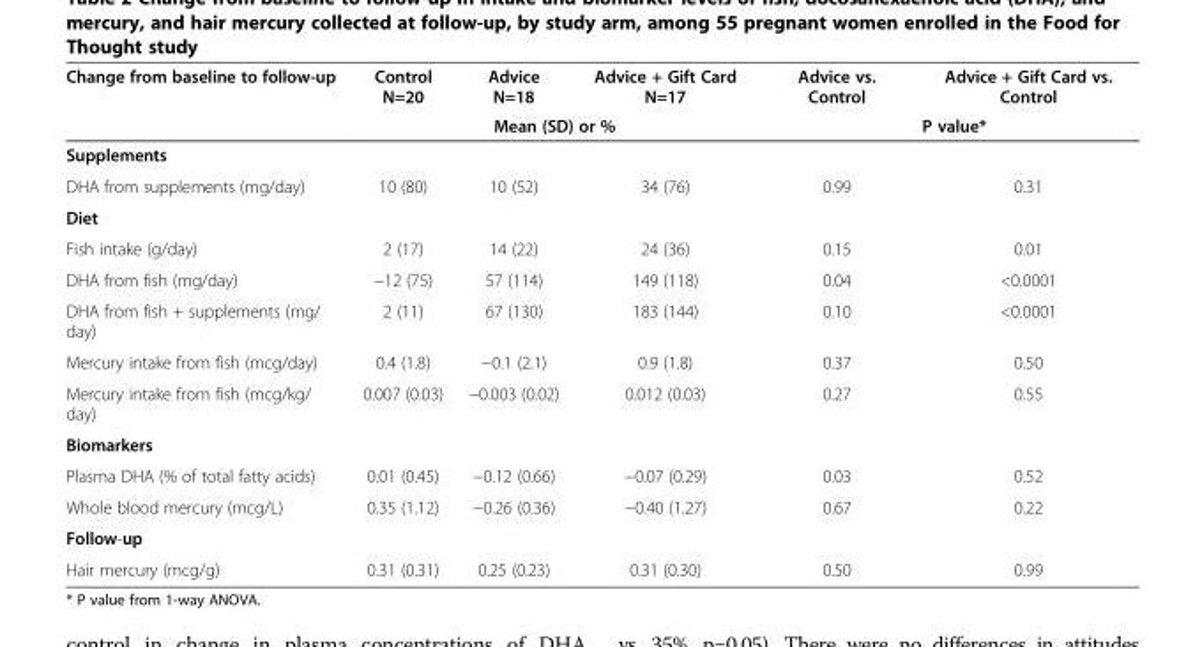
<table><thead><tr><td rowspan="2">Change from baseline to follow-up</td><td>Control N=20</td><td>Advice N=18</td><td>Advice + Gift Card N=17</td><td>Advice vs. Control</td><td>Advice + Gift Card vs. Control</td></tr><tr><td colspan="3">Mean (SD) or %</td><td colspan="2">P value*</td></tr></thead><tbody><tr><td colspan="6">Supplements</td></tr><tr><td>DHA from supplements (mg/day)</td><td>10 (80)</td><td>10 (52)</td><td>34 (76)</td><td>0.99</td><td>0.31</td></tr><tr><td colspan="6">Diet</td></tr><tr><td>Fish intake (g/day)</td><td>2 (17)</td><td>14 (22)</td><td>24 (36)</td><td>0.15</td><td>0.01</td></tr><tr><td>DHA from fish (mg/day)</td><td>−12 (75)</td><td>57 (114)</td><td>149 (118)</td><td>0.04</td><td>&lt;0.0001</td></tr><tr><td>DHA from fish + supplements (mg/ day)</td><td>2 (11)</td><td>67 (130)</td><td>183 (144)</td><td>0.10</td><td>&lt;0.0001</td></tr><tr><td>Mercury intake from fish (mcg/day)</td><td>0.4 (1.8)</td><td>−0.1 (2.1)</td><td>0.9 (1.8)</td><td>0.37</td><td>0.50</td></tr><tr><td>Mercury intake from fish (mcg/kg/ day)</td><td>0.007 (0.03)</td><td>−0.003 (0.02)</td><td>0.012 (0.03)</td><td>0.27</td><td>0.55</td></tr><tr><td colspan="6">Biomarkers</td></tr><tr><td>Plasma DHA (% of total fatty acids)</td><td>0.01 (0.45)</td><td>−0.12 (0.66)</td><td>−0.07 (0.29)</td><td>0.03</td><td>0.52</td></tr><tr><td>Whole blood mercury (mcg/L)</td><td>0.35 (1.12)</td><td>−0.26 (0.36)</td><td>−0.40 (1.27)</td><td>0.67</td><td>0.22</td></tr><tr><td colspan="6">Follow-up</td></tr><tr><td>Hair mercury (mcg/g)</td><td>0.31 (0.31)</td><td>0.25 (0.23)</td><td>0.31 (0.30)</td><td>0.50</td><td>0.99</td></tr></tbody></table>